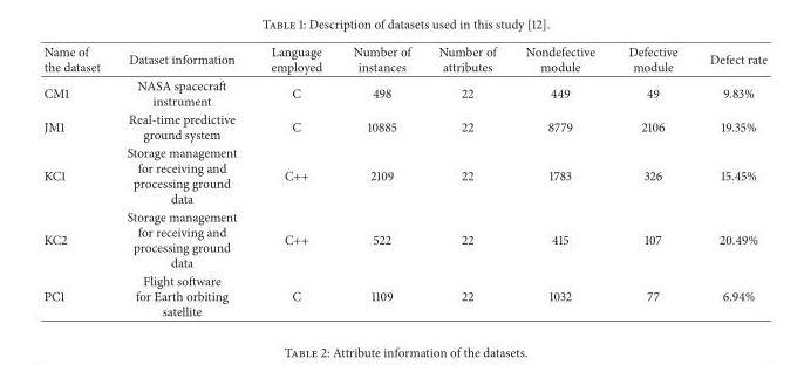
<table><thead><tr><td>Name of the dataset</td><td>Dataset information</td><td>Language employed</td><td>Number of instances</td><td>Number of attributes</td><td>Nondefective module</td><td>Defective module</td><td>Defect rate</td></tr></thead><tbody><tr><td>CM1</td><td>NASA spacecraft instrument</td><td>C</td><td>498</td><td>22</td><td>449</td><td>49</td><td>9.83%</td></tr><tr><td>JM1</td><td>Real-time predictive ground system</td><td>C</td><td>10885</td><td>22</td><td>8779</td><td>2106</td><td>19.35%</td></tr><tr><td>KC1</td><td>Storage management for receiving and processing ground data</td><td>C++</td><td>2109</td><td>22</td><td>1783</td><td>326</td><td>15.45%</td></tr><tr><td>KC2</td><td>Storage management for receiving and processing ground data</td><td>C++</td><td>522</td><td>22</td><td>415</td><td>107</td><td>20.49%</td></tr><tr><td>PC1</td><td>Flight software for Earth orbiting satellite</td><td>C</td><td>1109</td><td>22</td><td>1032</td><td>77</td><td>6.94%</td></tr></tbody></table>